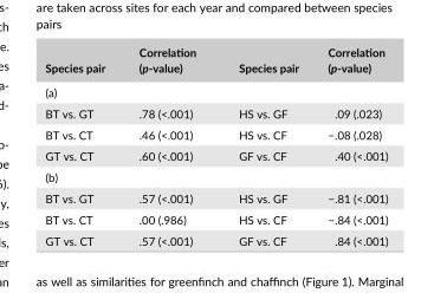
<table><thead><tr><td>Species pair</td><td>Correlation (p-value)</td><td>Species pair</td><td>Correlation (p-value)</td></tr></thead><tbody><tr><td colspan="4">(a)</td></tr><tr><td>BT vs. GT</td><td>.78 (&lt;.001)</td><td>HS vs. GF</td><td>.09 (.023)</td></tr><tr><td>BT vs. CT</td><td>.46 (&lt;.001)</td><td>HS vs. CF</td><td>−.08 (.028)</td></tr><tr><td>GT vs. CT</td><td>.60 (&lt;.001)</td><td>GF vs. CF</td><td>.40 (&lt;.001)</td></tr><tr><td colspan="4">(b)</td></tr><tr><td>BT vs. GT</td><td>.57 (&lt;.001)</td><td>HS vs. GF</td><td>−.81 (&lt;.001)</td></tr><tr><td>BT vs. CT</td><td>.00 (.986)</td><td>HS vs. CF</td><td>−.84 (&lt;.001)</td></tr><tr><td>GT vs. CT</td><td>.57 (&lt;.001)</td><td>GF vs. CF</td><td>.84 (&lt;.001)</td></tr></tbody></table>